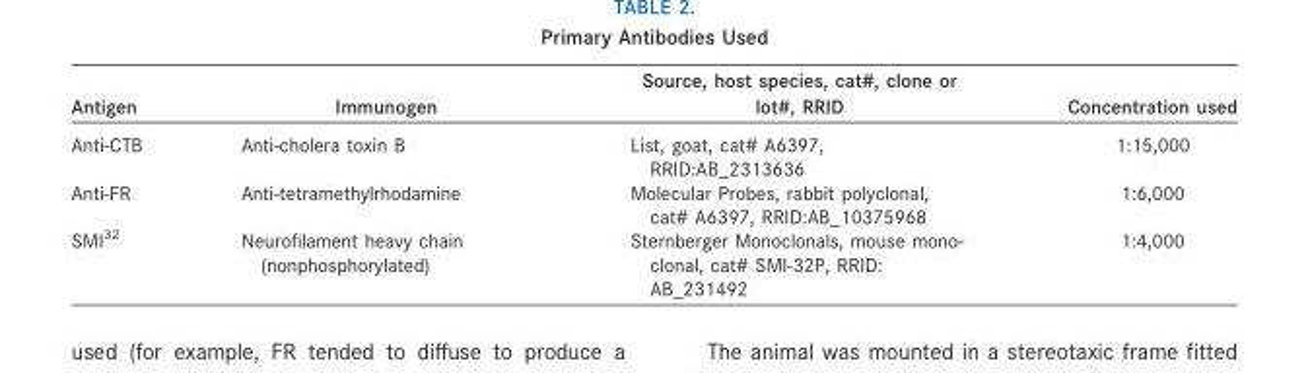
<table><thead><tr><td>Antigen</td><td>Immunogen</td><td>Source, host species, cat#, clone or lot#, RRID</td><td>Concentration used</td></tr></thead><tbody><tr><td>Anti-CTB</td><td>Anti-cholera toxin B</td><td>List, goat, cat# A6397, RRID:AB_2313636</td><td>1:15,000</td></tr><tr><td>Anti-FR</td><td>Anti-tetramethylrhodamine</td><td>Molecular Probes, rabbit polyclonal, cat# A6397, RRID:AB_10375968</td><td>1:6,000</td></tr><tr><td>SMI<sup>32</sup></td><td>Neurofilament heavy chain (nonphosphorylated)</td><td>Sternberger Monoclonals, mouse mono- clonal, cat# SMI-32P, RRID: AB_231492</td><td>1:4,000</td></tr></tbody></table>